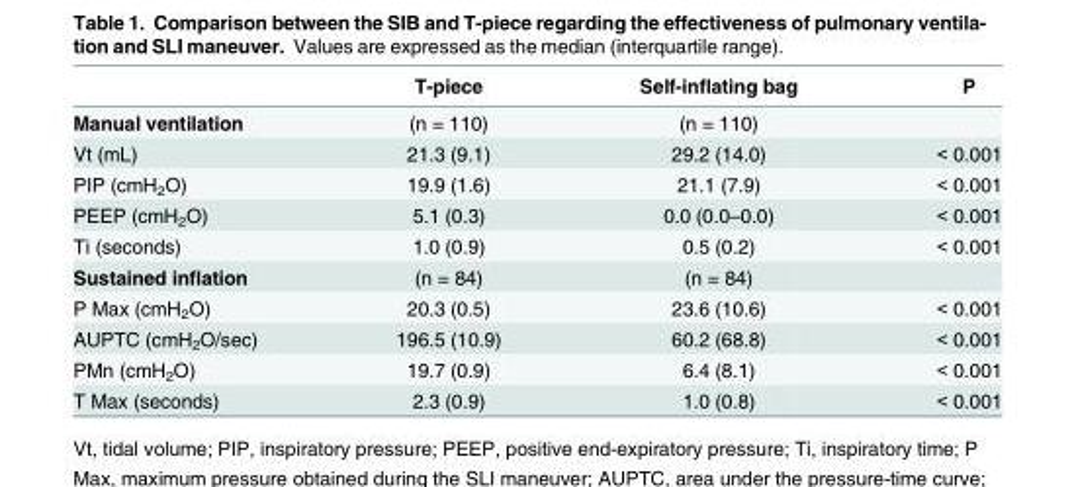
<table><thead><tr><td></td><td>T-piece</td><td>Self-inflating bag</td><td>P</td></tr></thead><tbody><tr><td>Manual ventilation</td><td>(n = 110)</td><td>(n = 110)</td><td></td></tr><tr><td>Vt (mL)</td><td>21.3 (9.1)</td><td>29.2 (14.0)</td><td>&lt; 0.001</td></tr><tr><td>PIP (cmH<sub>2</sub>O)</td><td>19.9 (1.6)</td><td>21.1 (7.9)</td><td>&lt; 0.001</td></tr><tr><td>PEEP (cmH<sub>2</sub>O)</td><td>5.1 (0.3)</td><td>0.0 (0.0–0.0)</td><td>&lt; 0.001</td></tr><tr><td>Ti (seconds)</td><td>1.0 (0.9)</td><td>0.5 (0.2)</td><td>&lt; 0.001</td></tr><tr><td>Sustained inflation</td><td>(n = 84)</td><td>(n = 84)</td><td></td></tr><tr><td>P Max (cmH<sub>2</sub>O)</td><td>20.3 (0.5)</td><td>23.6 (10.6)</td><td>&lt; 0.001</td></tr><tr><td>AUPTC (cmH<sub>2</sub>O/sec)</td><td>196.5 (10.9)</td><td>60.2 (68.8)</td><td>&lt; 0.001</td></tr><tr><td>PMn (cmH<sub>2</sub>O)</td><td>19.7 (0.9)</td><td>6.4 (8.1)</td><td>&lt; 0.001</td></tr><tr><td>T Max (seconds)</td><td>2.3 (0.9)</td><td>1.0 (0.8)</td><td>&lt; 0.001</td></tr></tbody></table>